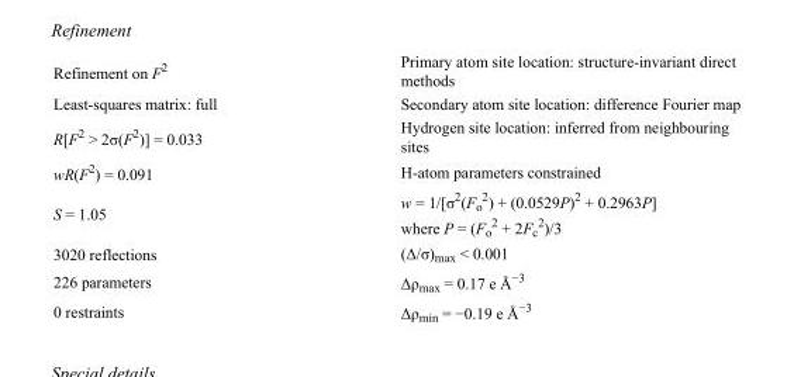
<table><tbody><tr><td>Refinement on F<sup>2</sup></td><td>Primary atom site location: structure-invariant direct methods</td></tr><tr><td>Least-squares matrix: full</td><td>Secondary atom site location: difference Fourier map</td></tr><tr><td>R[F<sup>2</sup> &gt; 2σ(F<sup>2</sup>)] = 0.033</td><td>Hydrogen site location: inferred from neighbouring sites</td></tr><tr><td>wR(F<sup>2</sup>) = 0.091</td><td>H-atom parameters constrained</td></tr><tr><td>S = 1.05</td><td>w = 1/[σ<sup>2</sup>(F<sub>o</sub> <sup>2</sup>) + (0.0529P)<sup>2</sup> + 0.2963P] where P = (F<sub>o</sub> <sup>2</sup> + 2F<sub>c</sub> <sup>2</sup>)/3</td></tr><tr><td>3020 reflections</td><td>(Δ/σ)<sub>max</sub> &lt; 0.001</td></tr><tr><td>226 parameters</td><td>Δρ<sub>max</sub> = 0.17 e Å<sup>−3</sup></td></tr><tr><td>0 restraints</td><td>Δρ<sub>min</sub> = −0.19 e Å<sup>−3</sup></td></tr></tbody></table>